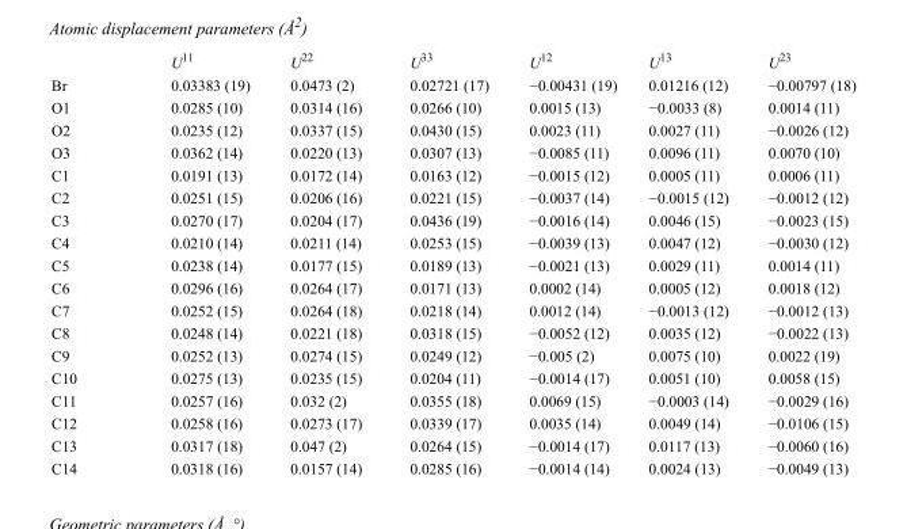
<table><thead><tr><td></td><td>U<sup>11</sup></td><td>U<sup>22</sup></td><td>U<sup>33</sup></td><td>U<sup>12</sup></td><td>U<sup>13</sup></td><td>U<sup>23</sup></td></tr></thead><tbody><tr><td>Br</td><td>0.03383 (19)</td><td>0.0473 (2)</td><td>0.02721 (17)</td><td>−0.00431 (19)</td><td>0.01216 (12)</td><td>−0.00797 (18)</td></tr><tr><td>O1</td><td>0.0285 (10)</td><td>0.0314 (16)</td><td>0.0266 (10)</td><td>0.0015 (13)</td><td>−0.0033 (8)</td><td>0.0014 (11)</td></tr><tr><td>O2</td><td>0.0235 (12)</td><td>0.0337 (15)</td><td>0.0430 (15)</td><td>0.0023 (11)</td><td>0.0027 (11)</td><td>−0.0026 (12)</td></tr><tr><td>O3</td><td>0.0362 (14)</td><td>0.0220 (13)</td><td>0.0307 (13)</td><td>−0.0085 (11)</td><td>0.0096 (11)</td><td>0.0070 (10)</td></tr><tr><td>C1</td><td>0.0191 (13)</td><td>0.0172 (14)</td><td>0.0163 (12)</td><td>−0.0015 (12)</td><td>0.0005 (11)</td><td>0.0006 (11)</td></tr><tr><td>C2</td><td>0.0251 (15)</td><td>0.0206 (16)</td><td>0.0221 (15)</td><td>−0.0037 (14)</td><td>−0.0015 (12)</td><td>−0.0012 (12)</td></tr><tr><td>C3</td><td>0.0270 (17)</td><td>0.0204 (17)</td><td>0.0436 (19)</td><td>−0.0016 (14)</td><td>0.0046 (15)</td><td>−0.0023 (15)</td></tr><tr><td>C4</td><td>0.0210 (14)</td><td>0.0211 (14)</td><td>0.0253 (15)</td><td>−0.0039 (13)</td><td>0.0047 (12)</td><td>−0.0030 (12)</td></tr><tr><td>C5</td><td>0.0238 (14)</td><td>0.0177 (15)</td><td>0.0189 (13)</td><td>−0.0021 (13)</td><td>0.0029 (11)</td><td>0.0014 (11)</td></tr><tr><td>C6</td><td>0.0296 (16)</td><td>0.0264 (17)</td><td>0.0171 (13)</td><td>0.0002 (14)</td><td>0.0005 (12)</td><td>0.0018 (12)</td></tr><tr><td>C7</td><td>0.0252 (15)</td><td>0.0264 (18)</td><td>0.0218 (14)</td><td>0.0012 (14)</td><td>−0.0013 (12)</td><td>−0.0012 (13)</td></tr><tr><td>C8</td><td>0.0248 (14)</td><td>0.0221 (18)</td><td>0.0318 (15)</td><td>−0.0052 (12)</td><td>0.0035 (12)</td><td>−0.0022 (13)</td></tr><tr><td>C9</td><td>0.0252 (13)</td><td>0.0274 (15)</td><td>0.0249 (12)</td><td>−0.005 (2)</td><td>0.0075 (10)</td><td>0.0022 (19)</td></tr><tr><td>C10</td><td>0.0275 (13)</td><td>0.0235 (15)</td><td>0.0204 (11)</td><td>−0.0014 (17)</td><td>0.0051 (10)</td><td>0.0058 (15)</td></tr><tr><td>C11</td><td>0.0257 (16)</td><td>0.032 (2)</td><td>0.0355 (18)</td><td>0.0069 (15)</td><td>−0.0003 (14)</td><td>−0.0029 (16)</td></tr><tr><td>C12</td><td>0.0258 (16)</td><td>0.0273 (17)</td><td>0.0339 (17)</td><td>0.0035 (14)</td><td>0.0049 (14)</td><td>−0.0106 (15)</td></tr><tr><td>C13</td><td>0.0317 (18)</td><td>0.047 (2)</td><td>0.0264 (15)</td><td>−0.0014 (17)</td><td>0.0117 (13)</td><td>−0.0060 (16)</td></tr><tr><td>C14</td><td>0.0318 (16)</td><td>0.0157 (14)</td><td>0.0285 (16)</td><td>−0.0014 (14)</td><td>0.0024 (13)</td><td>−0.0049 (13)</td></tr></tbody></table>